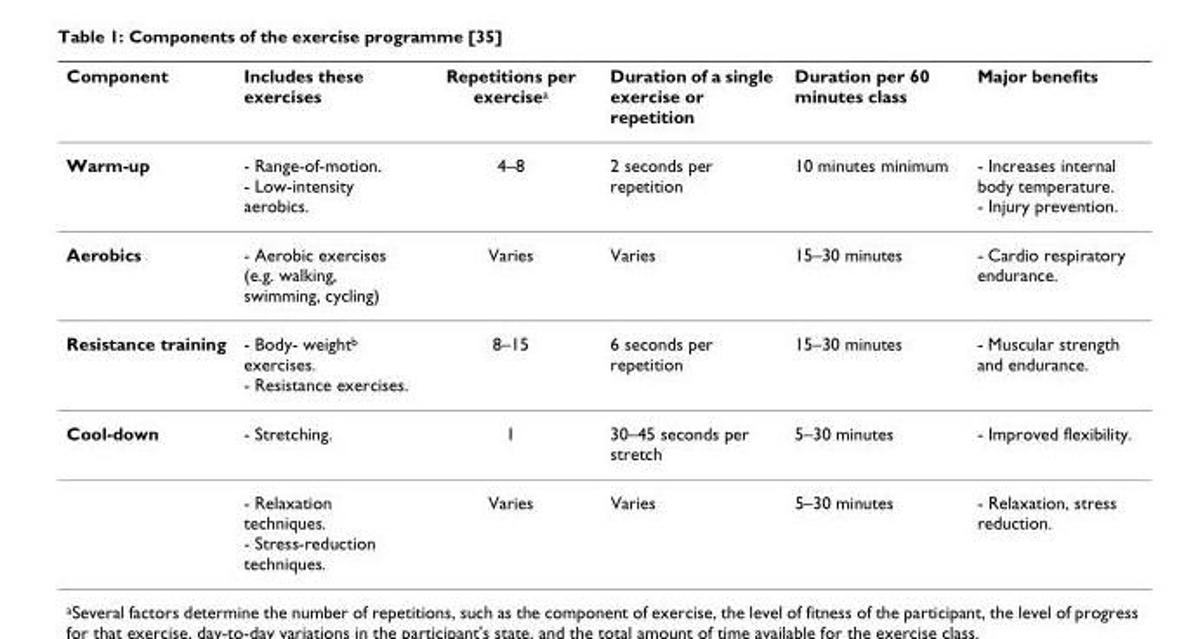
<table><thead><tr><td>Component</td><td>Includes these exercises</td><td>Repetitions per exercise<sup>a</sup></td><td>Duration of a single exercise or repetition</td><td>Duration per 60 minutes class</td><td>Major benefits</td></tr></thead><tbody><tr><td>Warm-up</td><td>- Range-of-motion. - Low-intensity aerobics.</td><td>4–8</td><td>2 seconds per repetition</td><td>10 minutes minimum</td><td>- Increases internal body temperature. - Injury prevention.</td></tr><tr><td>Aerobics</td><td>- Aerobic exercises (e.g. walking, swimming, cycling)</td><td>Varies</td><td>Varies</td><td>15–30 minutes</td><td>- Cardio respiratory endurance.</td></tr><tr><td>Resistance training</td><td>- Body- weight<sup>b</sup> exercises. - Resistance exercises.</td><td>8–15</td><td>6 seconds per repetition</td><td>15–30 minutes</td><td>- Muscular strength and endurance.</td></tr><tr><td rowspan="2">Cool-down</td><td>- Stretching.</td><td>1</td><td>30–45 seconds per stretch</td><td>5–30 minutes</td><td>- Improved flexibility.</td></tr><tr><td>- Relaxation techniques. - Stress-reduction techniques.</td><td>Varies</td><td>Varies</td><td>5–30 minutes</td><td>- Relaxation, stress reduction.</td></tr></tbody></table>